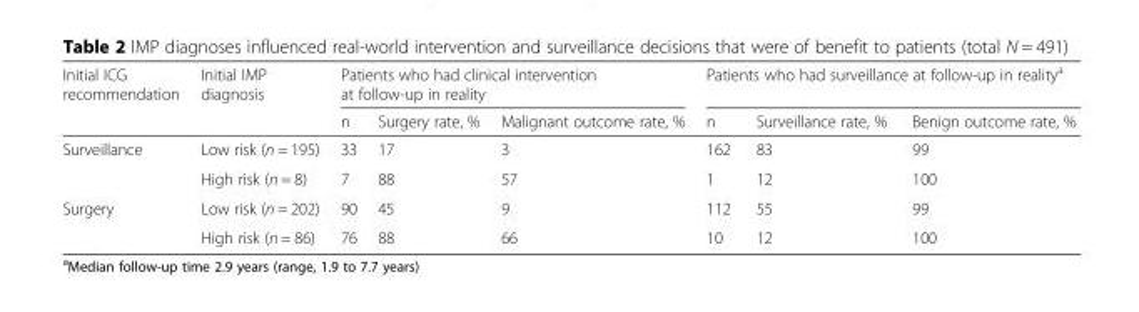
<table><thead><tr><td rowspan="2">Initial ICG recommendation</td><td rowspan="2">Initial IMP diagnosis</td><td colspan="3">Patients who had clinical intervention at follow-up in reality</td><td colspan="3">Patients who had surveillance at follow-up in reality<sup>a</sup></td></tr><tr><td>n</td><td>Surgery rate, %</td><td>Malignant outcome rate, %</td><td>n</td><td>Surveillance rate, %</td><td>Benign outcome rate, %</td></tr></thead><tbody><tr><td rowspan="2">Surveillance</td><td>Low risk (n = 195)</td><td>33</td><td>17</td><td>3</td><td>162</td><td>83</td><td>99</td></tr><tr><td>High risk (n = 8)</td><td>7</td><td>88</td><td>57</td><td>1</td><td>12</td><td>100</td></tr><tr><td rowspan="2">Surgery</td><td>Low risk (n = 202)</td><td>90</td><td>45</td><td>9</td><td>112</td><td>55</td><td>99</td></tr><tr><td>High risk (n = 86)</td><td>76</td><td>88</td><td>66</td><td>10</td><td>12</td><td>100</td></tr></tbody></table>